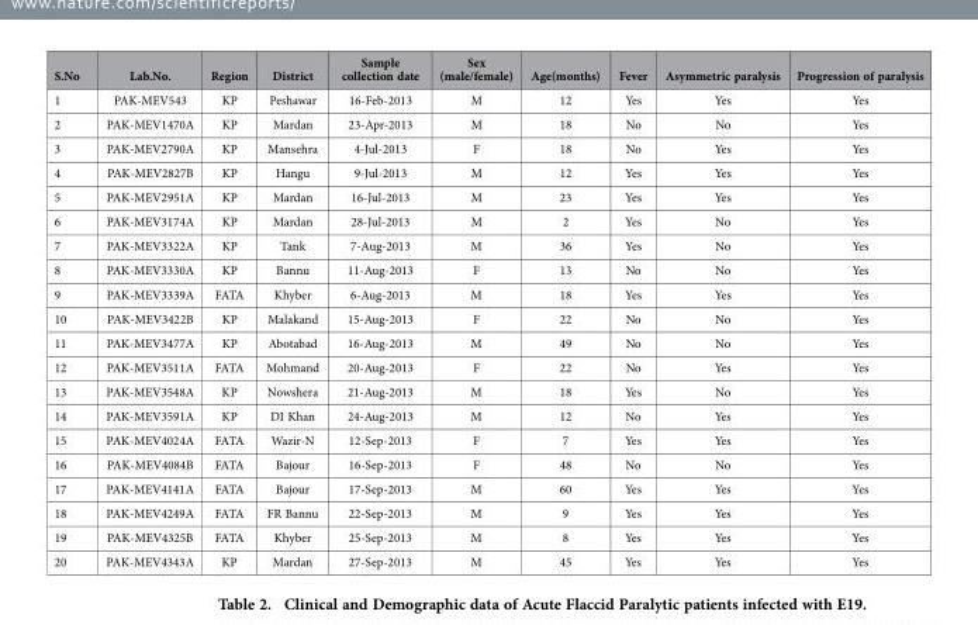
<table><thead><tr><td>S.No</td><td>Lab.No.</td><td>Region</td><td>District</td><td>Sample collection date</td><td>Sex (male/female)</td><td>Age(months)</td><td>Fever</td><td>Asymmetric paralysis</td><td>Progression of paralysis</td></tr></thead><tbody><tr><td>1</td><td>PAK-MEV543</td><td>KP</td><td>Peshawar</td><td>16-Feb-2013</td><td>M</td><td>12</td><td>Yes</td><td>Yes</td><td>Yes</td></tr><tr><td>2</td><td>PAK-MEV1470A</td><td>KP</td><td>Mardan</td><td>23-Apr-2013</td><td>M</td><td>18</td><td>No</td><td>No</td><td>Yes</td></tr><tr><td>3</td><td>PAK-MEV2790A</td><td>KP</td><td>Mansehra</td><td>4-Jul-2013</td><td>F</td><td>18</td><td>No</td><td>Yes</td><td>Yes</td></tr><tr><td>4</td><td>PAK-MEV2827B</td><td>KP</td><td>Hangu</td><td>9-Jul-2013</td><td>M</td><td>12</td><td>Yes</td><td>Yes</td><td>Yes</td></tr><tr><td>5</td><td>PAK-MEV2951A</td><td>KP</td><td>Mardan</td><td>16-Jul-2013</td><td>M</td><td>23</td><td>Yes</td><td>Yes</td><td>Yes</td></tr><tr><td>6</td><td>PAK-MEV3174A</td><td>KP</td><td>Mardan</td><td>28-Jul-2013</td><td>M</td><td>2</td><td>Yes</td><td>No</td><td>Yes</td></tr><tr><td>7</td><td>PAK-MEV3322A</td><td>KP</td><td>Tank</td><td>7-Aug-2013</td><td>M</td><td>36</td><td>Yes</td><td>No</td><td>Yes</td></tr><tr><td>8</td><td>PAK-MEV3330A</td><td>KP</td><td>Bannu</td><td>11-Aug-2013</td><td>F</td><td>13</td><td>No</td><td>No</td><td>Yes</td></tr><tr><td>9</td><td>PAK-MEV3339A</td><td>FATA</td><td>Khyber</td><td>6-Aug-2013</td><td>M</td><td>18</td><td>Yes</td><td>Yes</td><td>Yes</td></tr><tr><td>10</td><td>PAK-MEV3422B</td><td>KP</td><td>Malakand</td><td>15-Aug-2013</td><td>F</td><td>22</td><td>No</td><td>No</td><td>Yes</td></tr><tr><td>11</td><td>PAK-MEV3477A</td><td>KP</td><td>Abotabad</td><td>16-Aug-2013</td><td>M</td><td>49</td><td>No</td><td>No</td><td>Yes</td></tr><tr><td>12</td><td>PAK-MEV3511A</td><td>FATA</td><td>Mohmand</td><td>20-Aug-2013</td><td>F</td><td>22</td><td>No</td><td>Yes</td><td>Yes</td></tr><tr><td>13</td><td>PAK-MEV3548A</td><td>KP</td><td>Nowshera</td><td>21-Aug-2013</td><td>M</td><td>18</td><td>Yes</td><td>No</td><td>Yes</td></tr><tr><td>14</td><td>PAK-MEV3591A</td><td>KP</td><td>DI Khan</td><td>24-Aug-2013</td><td>M</td><td>12</td><td>No</td><td>Yes</td><td>Yes</td></tr><tr><td>15</td><td>PAK-MEV4024A</td><td>FATA</td><td>Wazir-N</td><td>12-Sep-2013</td><td>F</td><td>7</td><td>Yes</td><td>Yes</td><td>Yes</td></tr><tr><td>16</td><td>PAK-MEV4084B</td><td>FATA</td><td>Bajour</td><td>16-Sep-2013</td><td>F</td><td>48</td><td>No</td><td>No</td><td>Yes</td></tr><tr><td>17</td><td>PAK-MEV4141A</td><td>FATA</td><td>Bajour</td><td>17-Sep-2013</td><td>M</td><td>60</td><td>Yes</td><td>Yes</td><td>Yes</td></tr><tr><td>18</td><td>PAK-MEV4249A</td><td>FATA</td><td>FR Bannu</td><td>22-Sep-2013</td><td>M</td><td>9</td><td>Yes</td><td>Yes</td><td>Yes</td></tr><tr><td>19</td><td>PAK-MEV4325B</td><td>FATA</td><td>Khyber</td><td>25-Sep-2013</td><td>M</td><td>8</td><td>Yes</td><td>Yes</td><td>Yes</td></tr><tr><td>20</td><td>PAK-MEV4343A</td><td>KP</td><td>Mardan</td><td>27-Sep-2013</td><td>M</td><td>45</td><td>Yes</td><td>Yes</td><td>Yes</td></tr></tbody></table>